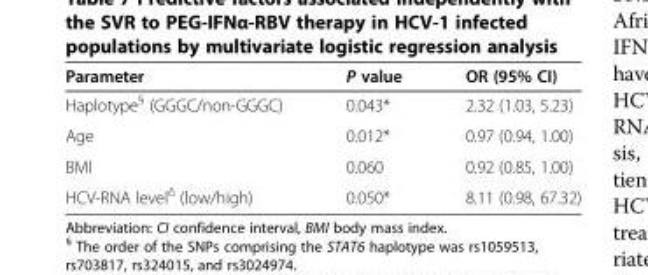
<table><thead><tr><td>Parameter</td><td>P value</td><td>OR (95% CI)</td></tr></thead><tbody><tr><td>Haplotype<sup>§</sup> (GGGC/non-GGGC)</td><td>0.043*</td><td>2.32 (1.03, 5.23)</td></tr><tr><td>Age</td><td>0.012*</td><td>0.97 (0.94, 1.00)</td></tr><tr><td>BMI</td><td>0.060</td><td>0.92 (0.85, 1.00)</td></tr><tr><td>HCV-RNA level<sup>δ</sup> (low/high)</td><td>0.050*</td><td>8.11 (0.98, 67.32)</td></tr></tbody></table>